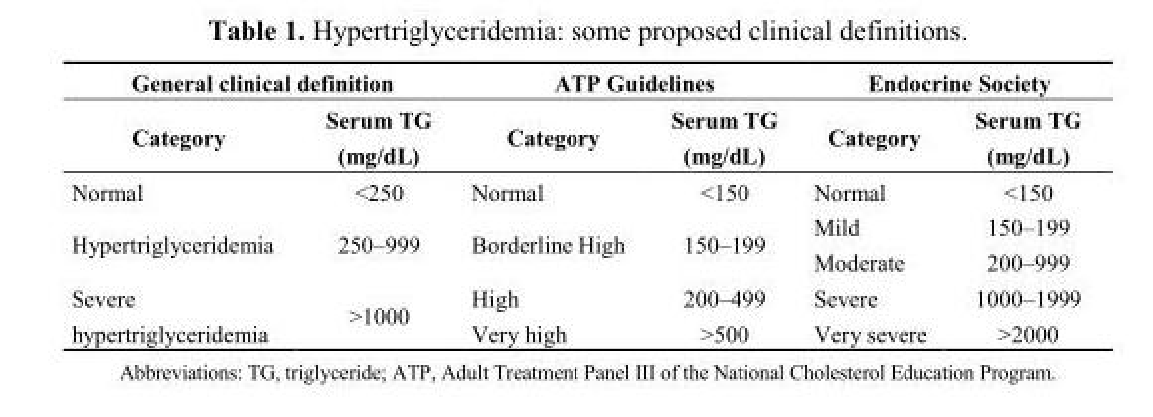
<table><thead><tr><td colspan="2">General clinical definition</td><td colspan="2">ATP Guidelines</td><td colspan="2">Endocrine Society</td></tr><tr><td>Category</td><td>Serum TG (mg/dL)</td><td>Category</td><td>Serum TG (mg/dL)</td><td>Category</td><td>Serum TG (mg/dL)</td></tr></thead><tbody><tr><td>Normal</td><td>&lt;250</td><td>Normal</td><td>&lt;150</td><td>Normal</td><td>&lt;150</td></tr><tr><td rowspan="2">Hypertriglyceridemia</td><td rowspan="2">250–999</td><td rowspan="2">Borderline High</td><td rowspan="2">150–199</td><td>Mild</td><td>150–199</td></tr><tr><td>Moderate</td><td>200–999</td></tr><tr><td rowspan="2">Severe hypertriglyceridemia</td><td rowspan="2">&gt;1000</td><td>High</td><td>200–499</td><td>Severe</td><td>1000–1999</td></tr><tr><td>Very high</td><td>&gt;500</td><td>Very severe</td><td>&gt;2000</td></tr></tbody></table>